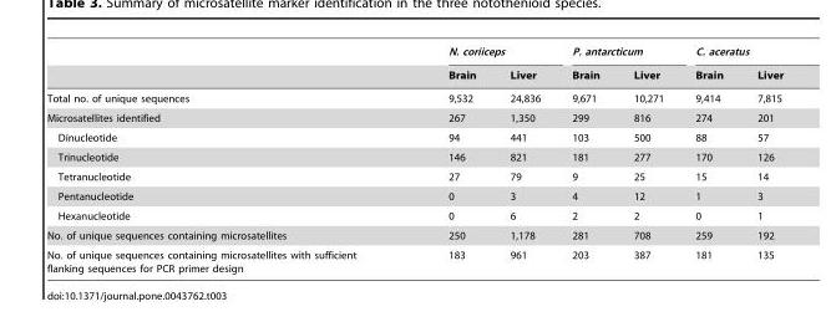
<table><thead><tr><td rowspan="2"></td><td colspan="2">N. coriiceps</td><td colspan="2">P. antarcticum</td><td colspan="2">C. aceratus</td></tr><tr><td>Brain</td><td>Liver</td><td>Brain</td><td>Liver</td><td>Brain</td><td>Liver</td></tr></thead><tbody><tr><td>Total no. of unique sequences</td><td>9,532</td><td>24,836</td><td>9,671</td><td>10,271</td><td>9,414</td><td>7,815</td></tr><tr><td>Microsatellites identified</td><td>267</td><td>1,350</td><td>299</td><td>816</td><td>274</td><td>201</td></tr><tr><td>Dinucleotide</td><td>94</td><td>441</td><td>103</td><td>500</td><td>88</td><td>57</td></tr><tr><td>Trinucleotide</td><td>146</td><td>821</td><td>181</td><td>277</td><td>170</td><td>126</td></tr><tr><td>Tetranucleotide</td><td>27</td><td>79</td><td>9</td><td>25</td><td>15</td><td>14</td></tr><tr><td>Pentanucleotide</td><td>0</td><td>3</td><td>4</td><td>12</td><td>1</td><td>3</td></tr><tr><td>Hexanucleotide</td><td>0</td><td>6</td><td>2</td><td>2</td><td>0</td><td>1</td></tr><tr><td>No. of unique sequences containing microsatellites</td><td>250</td><td>1,178</td><td>281</td><td>708</td><td>259</td><td>192</td></tr><tr><td>No. of unique sequences containing microsatellites with sufficient flanking sequences for PCR primer design</td><td>183</td><td>961</td><td>203</td><td>387</td><td>181</td><td>135</td></tr></tbody></table>